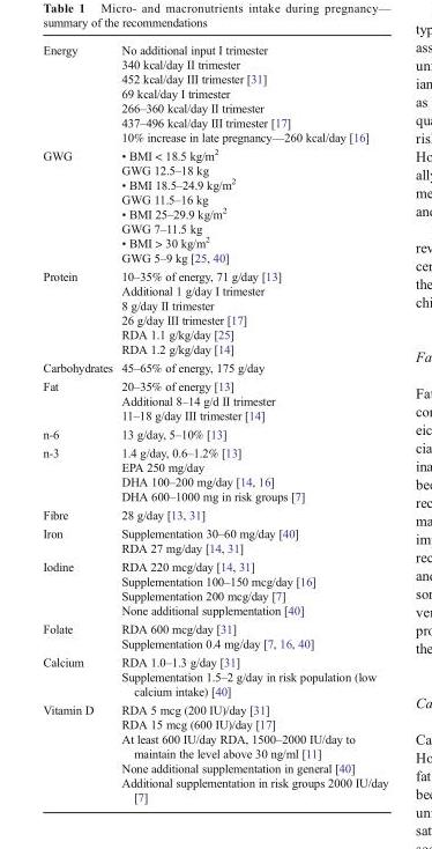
<table><tbody><tr><td>Energy</td><td>No additional input I trimester 340 kcal/day II trimester 452 kcal/day III trimester [31] 69 kcal/day I trimester 266–360 kcal/day II trimester 437–496 kcal/day III trimester [17] 10% increase in late pregnancy—260 kcal/day [16]</td></tr><tr><td>GWG</td><td>• BMI &lt; 18.5 kg/m<sup>2</sup> GWG 12.5–18 kg • BMI 18.5–24.9 kg/m<sup>2</sup> GWG 11.5–16 kg • BMI 25–29.9 kg/m<sup>2</sup> GWG 7–11.5 kg • BMI &gt; 30 kg/m<sup>2</sup> GWG 5–9 kg [25, 40]</td></tr><tr><td>Protein</td><td>10–35% of energy, 71 g/day [13] Additional 1 g/day I trimester 8 g/day II trimester 26 g/day III trimester [17] RDA 1.1 g/kg/day [25] RDA 1.2 g/kg/day [14]</td></tr><tr><td>Carbohydrates</td><td>45–65% of energy, 175 g/day</td></tr><tr><td>Fat</td><td>20–35% of energy [13] Additional 8–14 g/d II trimester 11–18 g/day III trimester [14]</td></tr><tr><td>n-6</td><td>13 g/day, 5–10% [13]</td></tr><tr><td>n-3</td><td>1.4 g/day, 0.6–1.2% [13] EPA 250 mg/day DHA 100–200 mg/day [14, 16] DHA 600–1000 mg in risk groups [7]</td></tr><tr><td>Fibre</td><td>28 g/day [13, 31]</td></tr><tr><td>Iron</td><td>Supplementation 30–60 mg/day [40] RDA 27 mg/day [14, 31]</td></tr><tr><td>Iodine</td><td>RDA 220 mcg/day [14, 31] Supplementation 100–150 mcg/day [16] Supplementation 200 mcg/day [7] None additional supplementation [40]</td></tr><tr><td>Folate</td><td>RDA 600 mcg/day [31] Supplementation 0.4 mg/day [7, 16, 40]</td></tr><tr><td>Calcium</td><td>RDA 1.0–1.3 g/day [31] Supplementation 1.5–2 g/day in risk population (low calcium intake) [40]</td></tr><tr><td>Vitamin D</td><td>RDA 5 mcg (200 IU)/day [31] RDA 15 mcg (600 IU)/day [17] At least 600 IU/day RDA, 1500–2000 IU/day to maintain the level above 30 ng/ml [11] None additional supplementation in general [40] Additional supplementation in risk groups 2000 IU/day [7]</td></tr></tbody></table>